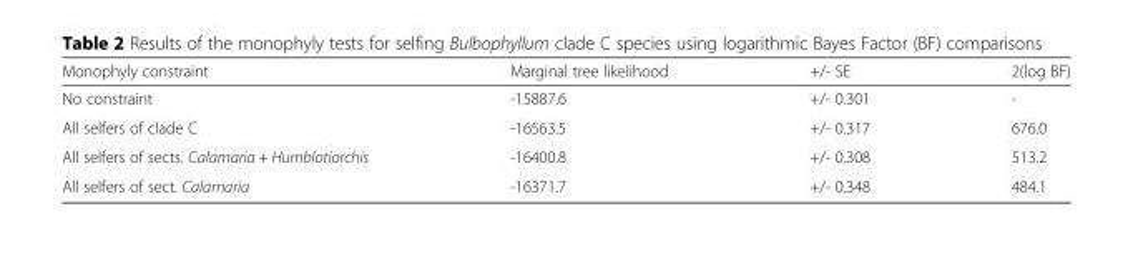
<table><thead><tr><td>Monophyly constraint</td><td>Marginal tree likelihood</td><td>+/- SE</td><td>2(log BF)</td></tr></thead><tbody><tr><td>No constraint</td><td>-15887.6</td><td>+/- 0.301</td><td>-</td></tr><tr><td>All selfers of clade C</td><td>-16563.5</td><td>+/- 0.317</td><td>676.0</td></tr><tr><td>All selfers of sects. Calamaria + Humblotiorchis</td><td>-16400.8</td><td>+/- 0.308</td><td>513.2</td></tr><tr><td>All selfers of sect. Calamaria</td><td>-16371.7</td><td>+/- 0.348</td><td>484.1</td></tr></tbody></table>